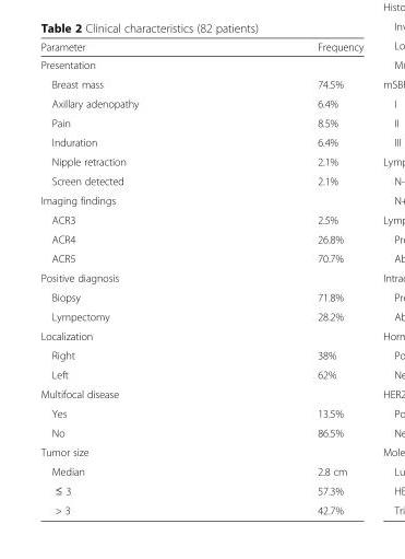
<table><thead><tr><td>Parameter</td><td>Frequency</td></tr></thead><tbody><tr><td colspan="2">Presentation</td></tr><tr><td>Breast mass</td><td>74.5%</td></tr><tr><td>Axillary adenopathy</td><td>6.4%</td></tr><tr><td>Pain</td><td>8.5%</td></tr><tr><td>Induration</td><td>6.4%</td></tr><tr><td>Nipple retraction</td><td>2.1%</td></tr><tr><td>Screen detected</td><td>2.1%</td></tr><tr><td colspan="2">Imaging findings</td></tr><tr><td>ACR3</td><td>2.5%</td></tr><tr><td>ACR4</td><td>26.8%</td></tr><tr><td>ACR5</td><td>70.7%</td></tr><tr><td colspan="2">Positive diagnosis</td></tr><tr><td>Biopsy</td><td>71.8%</td></tr><tr><td>Lympectomy</td><td>28.2%</td></tr><tr><td colspan="2">Localization</td></tr><tr><td>Right</td><td>38%</td></tr><tr><td>Left</td><td>62%</td></tr><tr><td colspan="2">Multifocal disease</td></tr><tr><td>Yes</td><td>13.5%</td></tr><tr><td>No</td><td>86.5%</td></tr><tr><td colspan="2">Tumor size</td></tr><tr><td>Median</td><td>2.8 cm</td></tr><tr><td>≤ 3</td><td>57.3%</td></tr><tr><td>&gt; 3</td><td>42.7%</td></tr></tbody></table>